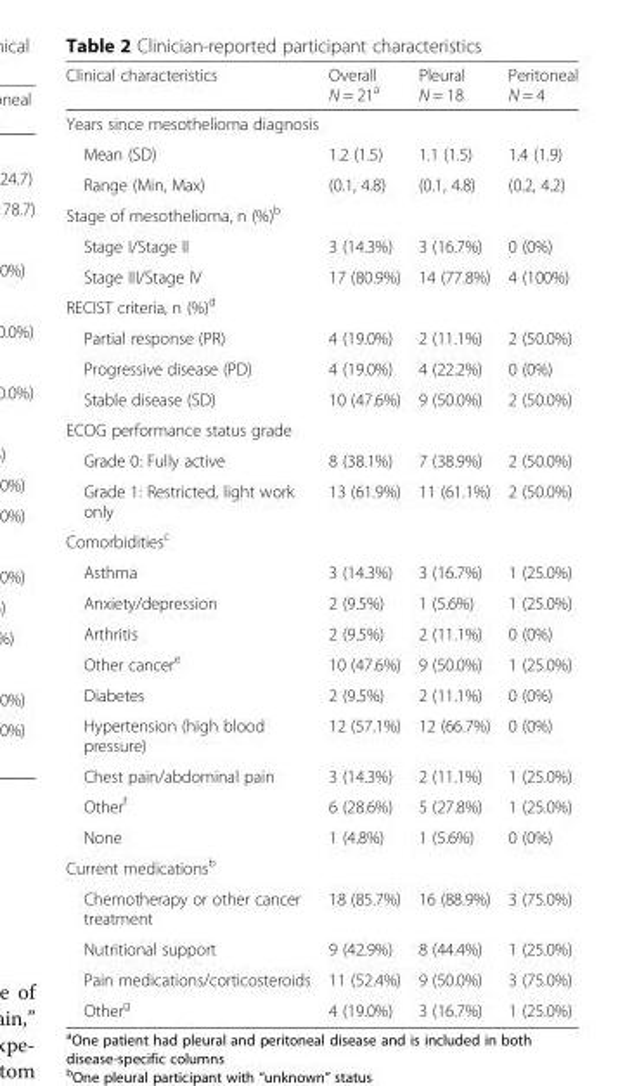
<table><thead><tr><td>Clinical characteristics</td><td>Overall N = 21<sup>a</sup></td><td>Pleural N = 18</td><td>Peritoneal N = 4</td></tr></thead><tbody><tr><td colspan="4">Years since mesothelioma diagnosis</td></tr><tr><td>Mean (SD)</td><td>1.2 (1.5)</td><td>1.1 (1.5)</td><td>1.4 (1.9)</td></tr><tr><td>Range (Min, Max)</td><td>(0.1, 4.8)</td><td>(0.1, 4.8)</td><td>(0.2, 4.2)</td></tr><tr><td colspan="4">Stage of mesothelioma, n (%)<sup>b</sup></td></tr><tr><td>Stage I/Stage II</td><td>3 (14.3%)</td><td>3 (16.7%)</td><td>0 (0%)</td></tr><tr><td>Stage III/Stage IV</td><td>17 (80.9%)</td><td>14 (77.8%)</td><td>4 (100%)</td></tr><tr><td colspan="4">RECIST criteria, n (%)<sup>d</sup></td></tr><tr><td>Partial response (PR)</td><td>4 (19.0%)</td><td>2 (11.1%)</td><td>2 (50.0%)</td></tr><tr><td>Progressive disease (PD)</td><td>4 (19.0%)</td><td>4 (22.2%)</td><td>0 (0%)</td></tr><tr><td>Stable disease (SD)</td><td>10 (47.6%)</td><td>9 (50.0%)</td><td>2 (50.0%)</td></tr><tr><td colspan="4">ECOG performance status grade</td></tr><tr><td>Grade 0: Fully active</td><td>8 (38.1%)</td><td>7 (38.9%)</td><td>2 (50.0%)</td></tr><tr><td>Grade 1: Restricted, light work only</td><td>13 (61.9%)</td><td>11 (61.1%)</td><td>2 (50.0%)</td></tr><tr><td colspan="4">Comorbidities<sup>c</sup></td></tr><tr><td>Asthma</td><td>3 (14.3%)</td><td>3 (16.7%)</td><td>1 (25.0%)</td></tr><tr><td>Anxiety/depression</td><td>2 (9.5%)</td><td>1 (5.6%)</td><td>1 (25.0%)</td></tr><tr><td>Arthritis</td><td>2 (9.5%)</td><td>2 (11.1%)</td><td>0 (0%)</td></tr><tr><td>Other cancer<sup>e</sup></td><td>10 (47.6%)</td><td>9 (50.0%)</td><td>1 (25.0%)</td></tr><tr><td>Diabetes</td><td>2 (9.5%)</td><td>2 (11.1%)</td><td>0 (0%)</td></tr><tr><td>Hypertension (high blood pressure)</td><td>12 (57.1%)</td><td>12 (66.7%)</td><td>0 (0%)</td></tr><tr><td>Chest pain/abdominal pain</td><td>3 (14.3%)</td><td>2 (11.1%)</td><td>1 (25.0%)</td></tr><tr><td>Other<sup>f</sup></td><td>6 (28.6%)</td><td>5 (27.8%)</td><td>1 (25.0%)</td></tr><tr><td>None</td><td>1 (4.8%)</td><td>1 (5.6%)</td><td>0 (0%)</td></tr><tr><td colspan="4">Current medications<sup>b</sup></td></tr><tr><td>Chemotherapy or other cancer treatment</td><td>18 (85.7%)</td><td>16 (88.9%)</td><td>3 (75.0%)</td></tr><tr><td>Nutritional support</td><td>9 (42.9%)</td><td>8 (44.4%)</td><td>1 (25.0%)</td></tr><tr><td>Pain medications/corticosteroids</td><td>11 (52.4%)</td><td>9 (50.0%)</td><td>3 (75.0%)</td></tr><tr><td>Other<sup>g</sup></td><td>4 (19.0%)</td><td>3 (16.7%)</td><td>1 (25.0%)</td></tr></tbody></table>